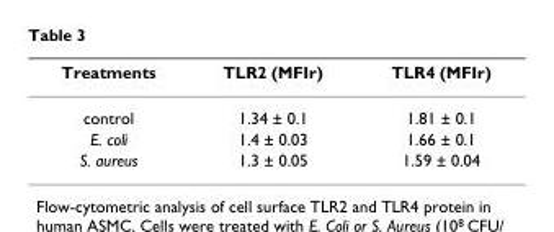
<table><thead><tr><td>Treatments</td><td>TLR2 (MFIr)</td><td>TLR4 (MFIr)</td></tr></thead><tbody><tr><td>control</td><td>1.34 ± 0.1</td><td>1.81 ± 0.1</td></tr><tr><td>E. coli</td><td>1.4 ± 0.03</td><td>1.66 ± 0.1</td></tr><tr><td>S. aureus</td><td>1.3 ± 0.05</td><td>1.59 ± 0.04</td></tr></tbody></table>